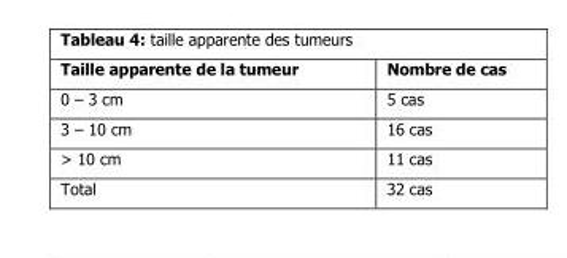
<table><thead><tr><td>Taille apparente de la tumeur</td><td>Nombre de cas</td></tr></thead><tbody><tr><td>0 – 3 cm</td><td>5 cas</td></tr><tr><td>3 – 10 cm</td><td>16 cas</td></tr><tr><td>&gt; 10 cm</td><td>11 cas</td></tr><tr><td>Total</td><td>32 cas</td></tr></tbody></table>